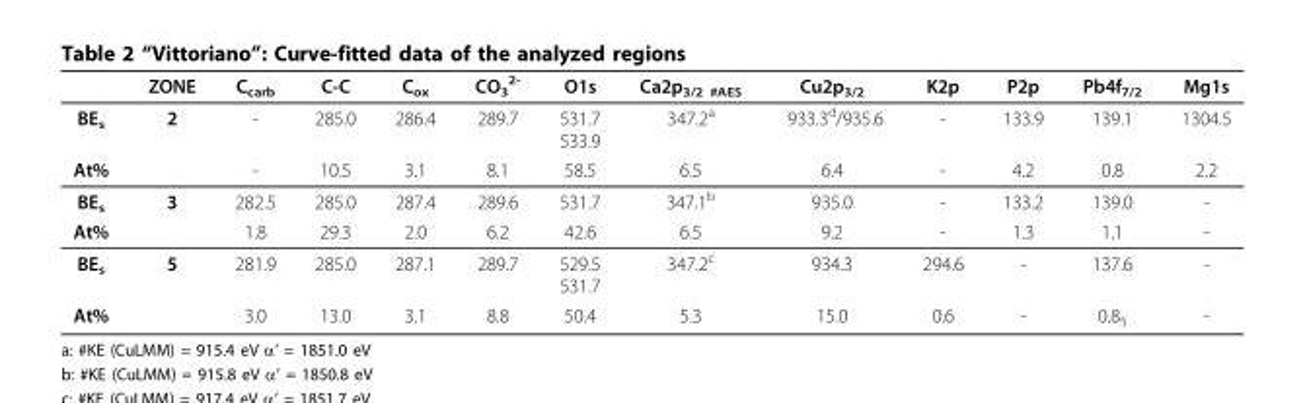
<table><thead><tr><td></td><td>ZONE</td><td>C<sub>carb</sub></td><td>C-C</td><td>C<sub>ox</sub></td><td>CO<sub>3</sub> <sup>2-</sup></td><td>O1s</td><td>Ca2p<sub>3/2 #AES</sub></td><td>Cu2p<sub>3/2</sub></td><td>K2p</td><td>P2p</td><td>Pb4f<sub>7/2</sub></td><td>Mg1s</td></tr></thead><tbody><tr><td>BE<sub>s</sub></td><td>2</td><td>-</td><td>285.0</td><td>286.4</td><td>289.7</td><td>531.7 533.9</td><td>347.2<sup>a</sup></td><td>933.3<sup>d</sup>/935.6</td><td>-</td><td>133.9</td><td>139.1</td><td>1304.5</td></tr><tr><td>At%</td><td></td><td>-</td><td>10.5</td><td>3.1</td><td>8.1</td><td>58.5</td><td>6.5</td><td>6.4</td><td>-</td><td>4.2</td><td>0.8</td><td>2.2</td></tr><tr><td>BE<sub>s</sub></td><td>3</td><td>282.5</td><td>285.0</td><td>287.4</td><td>289.6</td><td>531.7</td><td>347.1<sup>b</sup></td><td>935.0</td><td>-</td><td>133.2</td><td>139.0</td><td>-</td></tr><tr><td>At%</td><td></td><td>1.8</td><td>29.3</td><td>2.0</td><td>6.2</td><td>42.6</td><td>6.5</td><td>9.2</td><td>-</td><td>1.3</td><td>1.1</td><td>-</td></tr><tr><td>BE<sub>s</sub></td><td>5</td><td>281.9</td><td>285.0</td><td>287.1</td><td>289.7</td><td>529.5 531.7</td><td>347.2<sup>c</sup></td><td>934.3</td><td>294.6</td><td>-</td><td>137.6</td><td>-</td></tr><tr><td>At%</td><td></td><td>3.0</td><td>13.0</td><td>3.1</td><td>8.8</td><td>50.4</td><td>5.3</td><td>15.0</td><td>0.6</td><td>-</td><td>0.8<sub>5</sub></td><td>-</td></tr></tbody></table>